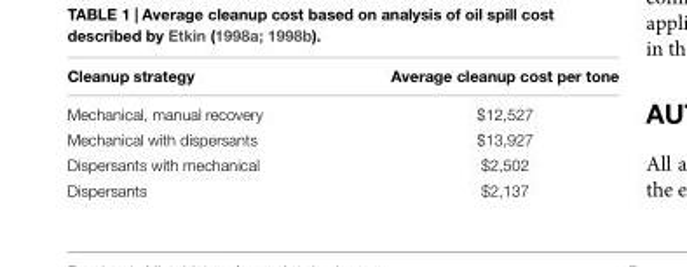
<table><thead><tr><td>Cleanup strategy</td><td>Average cleanup cost per tone</td></tr></thead><tbody><tr><td>Mechanical, manual recovery</td><td>$12,527</td></tr><tr><td>Mechanical with dispersants</td><td>$13,927</td></tr><tr><td>Dispersants with mechanical</td><td>$2,502</td></tr><tr><td>Dispersants</td><td>$2,137</td></tr></tbody></table>